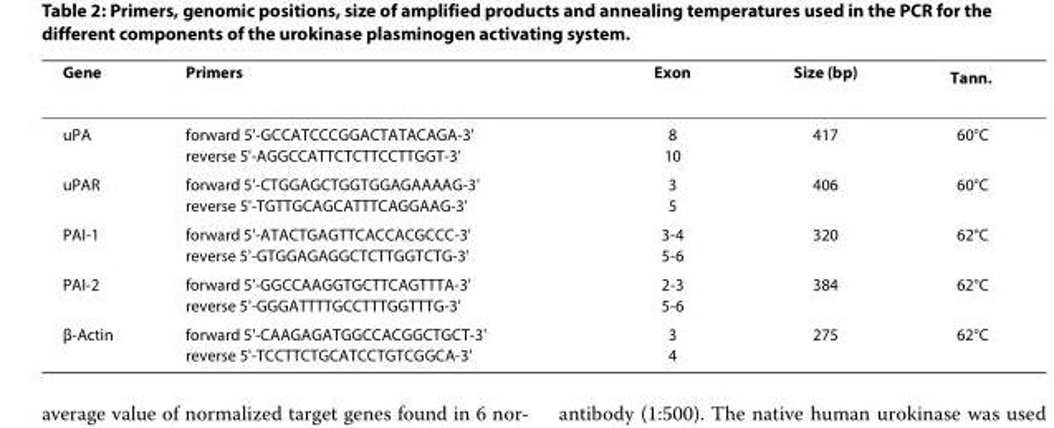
<table><thead><tr><td>Gene</td><td>Primers</td><td>Exon</td><td>Size (bp)</td><td>T<sub>ann.</sub></td></tr></thead><tbody><tr><td>uPA</td><td>forward 5&#x27;-GCCATCCCGGACTATACAGA-3&#x27; reverse 5&#x27;-AGGCCATTCTCTTCCTTGGT-3&#x27;</td><td>8 10</td><td>417</td><td>60°C</td></tr><tr><td>uPAR</td><td>forward 5&#x27;-CTGGAGCTGGTGGAGAAAAG-3&#x27; reverse 5&#x27;-TGTTGCAGCATTTCAGGAAG-3&#x27;</td><td>3 5</td><td>406</td><td>60°C</td></tr><tr><td>PAI-1</td><td>forward 5&#x27;-ATACTGAGTTCACCACGCCC-3&#x27; reverse 5&#x27;-GTGGAGAGGCTCTTGGTCTG-3&#x27;</td><td>3-4 5-6</td><td>320</td><td>62°C</td></tr><tr><td>PAI-2</td><td>forward 5&#x27;-GGCCAAGGTGCTTCAGTTTA-3&#x27; reverse 5&#x27;-GGGATTTTGCCTTTGGTTTG-3&#x27;</td><td>2-3 5-6</td><td>384</td><td>62°C</td></tr><tr><td>β-Actin</td><td>forward 5&#x27;-CAAGAGATGGCCACGGCTGCT-3&#x27; reverse 5&#x27;-TCCTTCTGCATCCTGTCGGCA-3&#x27;</td><td>3 4</td><td>275</td><td>62°C</td></tr></tbody></table>